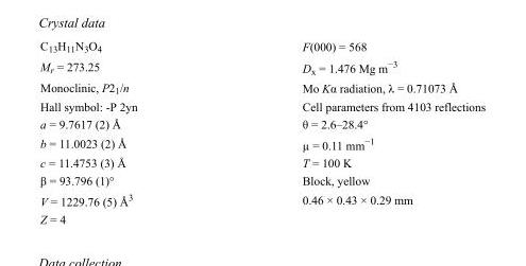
<table><tbody><tr><td>C<sub>13</sub>H<sub>11</sub>N<sub>3</sub>O<sub>4</sub></td><td>F(000) = 568</td></tr><tr><td>M<sub>r</sub> = 273.25</td><td>D<sub>x</sub> = 1.476 Mg m<sup>−3</sup></td></tr><tr><td>Monoclinic, P2<sub>1</sub>/n</td><td>Mo Kα radiation, λ = 0.71073 Å</td></tr><tr><td>Hall symbol: -P 2yn</td><td>Cell parameters from 4103 reflections</td></tr><tr><td>a = 9.7617 (2) Å</td><td>θ = 2.6–28.4°</td></tr><tr><td>b = 11.0023 (2) Å</td><td>µ = 0.11 mm<sup>−1</sup></td></tr><tr><td>c = 11.4753 (3) Å</td><td>T = 100 K</td></tr><tr><td>β = 93.796 (1)°</td><td>Block, yellow</td></tr><tr><td>V = 1229.76 (5) Å<sup>3</sup></td><td>0.46 × 0.43 × 0.29 mm</td></tr><tr><td>Z = 4</td><td></td></tr></tbody></table>